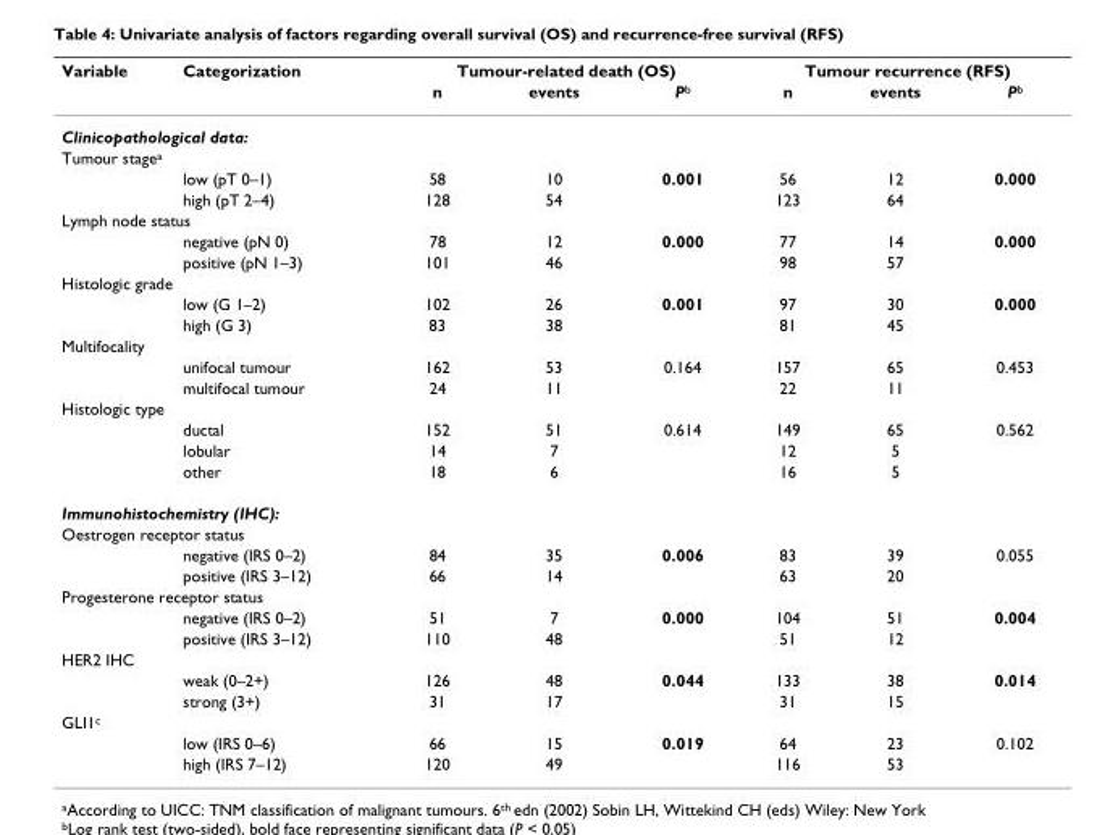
<table><thead><tr><td rowspan="2">Variable</td><td rowspan="2">Categorization</td><td colspan="3">Tumour-related death (OS)</td><td colspan="3">Tumour recurrence (RFS)</td></tr><tr><td>n</td><td>events</td><td>P<sup>b</sup></td><td>n</td><td>events</td><td>P<sup>b</sup></td></tr></thead><tbody><tr><td colspan="8">Clinicopathological data:</td></tr><tr><td colspan="8">Tumour stage<sup>a</sup></td></tr><tr><td></td><td>low (pT 0–1)</td><td>58</td><td>10</td><td>0.001</td><td>56</td><td>12</td><td>0.000</td></tr><tr><td></td><td>high (pT 2–4)</td><td>128</td><td>54</td><td></td><td>123</td><td>64</td><td></td></tr><tr><td colspan="8">Lymph node status</td></tr><tr><td></td><td>negative (pN 0)</td><td>78</td><td>12</td><td>0.000</td><td>77</td><td>14</td><td>0.000</td></tr><tr><td></td><td>positive (pN 1–3)</td><td>101</td><td>46</td><td></td><td>98</td><td>57</td><td></td></tr><tr><td colspan="8">Histologic grade</td></tr><tr><td></td><td>low (G 1–2)</td><td>102</td><td>26</td><td>0.001</td><td>97</td><td>30</td><td>0.000</td></tr><tr><td></td><td>high (G 3)</td><td>83</td><td>38</td><td></td><td>81</td><td>45</td><td></td></tr><tr><td colspan="8">Multifocality</td></tr><tr><td></td><td>unifocal tumour</td><td>162</td><td>53</td><td>0.164</td><td>157</td><td>65</td><td>0.453</td></tr><tr><td></td><td>multifocal tumour</td><td>24</td><td>11</td><td></td><td>22</td><td>11</td><td></td></tr><tr><td colspan="8">Histologic type</td></tr><tr><td></td><td>ductal</td><td>152</td><td>51</td><td>0.614</td><td>149</td><td>65</td><td>0.562</td></tr><tr><td></td><td>lobular</td><td>14</td><td>7</td><td></td><td>12</td><td>5</td><td></td></tr><tr><td></td><td>other</td><td>18</td><td>6</td><td></td><td>16</td><td>5</td><td></td></tr><tr><td colspan="8">Immunohistochemistry (IHC):</td></tr><tr><td colspan="8">Oestrogen receptor status</td></tr><tr><td></td><td>negative (IRS 0–2)</td><td>84</td><td>35</td><td>0.006</td><td>83</td><td>39</td><td>0.055</td></tr><tr><td></td><td>positive (IRS 3–12)</td><td>66</td><td>14</td><td></td><td>63</td><td>20</td><td></td></tr><tr><td colspan="8">Progesterone receptor status</td></tr><tr><td></td><td>negative (IRS 0–2)</td><td>51</td><td>7</td><td>0.000</td><td>104</td><td>51</td><td>0.004</td></tr><tr><td></td><td>positive (IRS 3–12)</td><td>110</td><td>48</td><td></td><td>51</td><td>12</td><td></td></tr><tr><td colspan="8">HER2 IHC</td></tr><tr><td></td><td>weak (0–2+)</td><td>126</td><td>48</td><td>0.044</td><td>133</td><td>38</td><td>0.014</td></tr><tr><td></td><td>strong (3+)</td><td>31</td><td>17</td><td></td><td>31</td><td>15</td><td></td></tr><tr><td colspan="8">GLI1<sup>c</sup></td></tr><tr><td></td><td>low (IRS 0–6)</td><td>66</td><td>15</td><td>0.019</td><td>64</td><td>23</td><td>0.102</td></tr><tr><td></td><td>high (IRS 7–12)</td><td>120</td><td>49</td><td></td><td>116</td><td>53</td><td></td></tr></tbody></table>